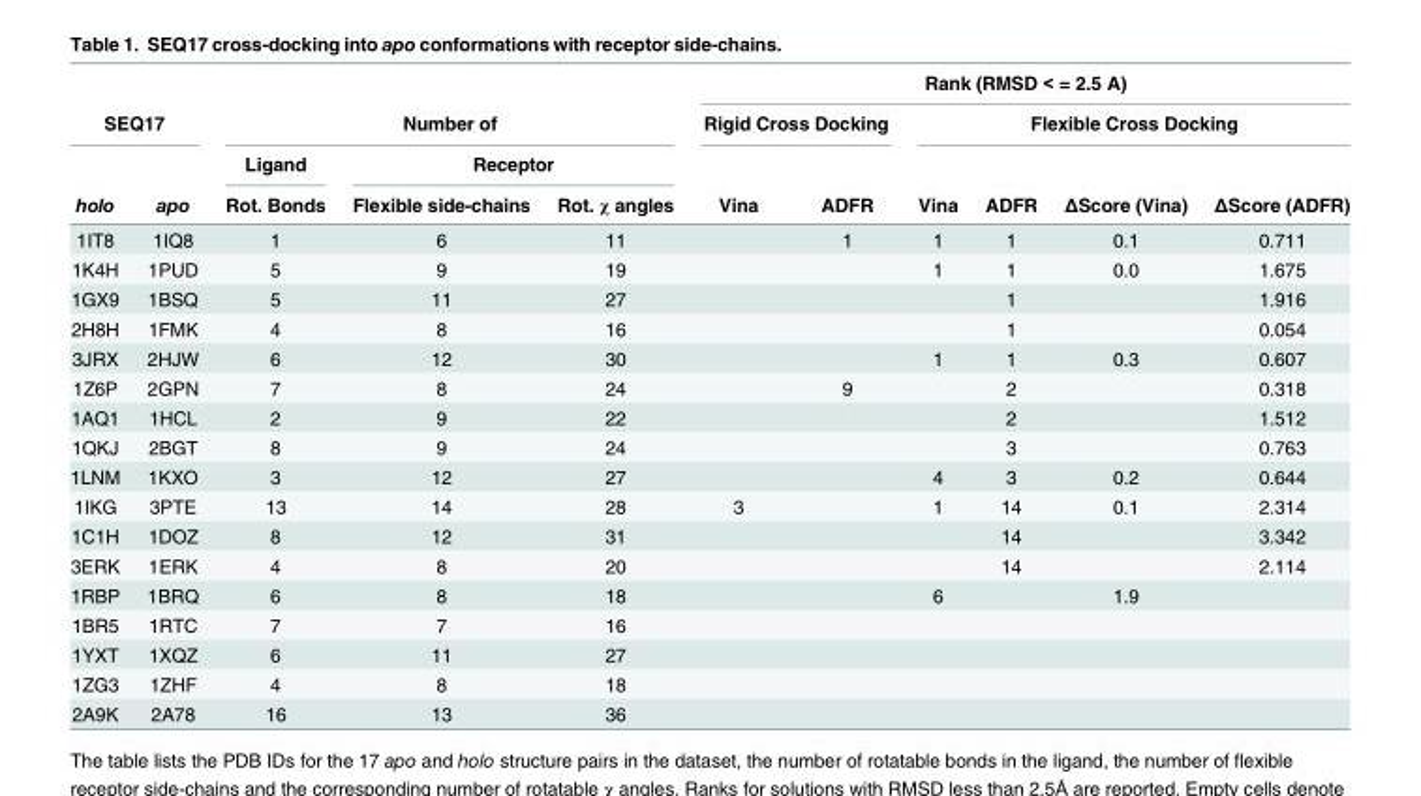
<table><thead><tr><td></td><td></td><td></td><td></td><td></td><td colspan="6">Rank (RMSD &lt; = 2.5 A)</td></tr><tr><td colspan="2">SEQ17</td><td colspan="3">Number of</td><td colspan="2">Rigid Cross Docking</td><td colspan="4">Flexible Cross Docking</td></tr><tr><td rowspan="2">holo</td><td rowspan="2">apo</td><td rowspan="2">Ligand Rot. Bonds</td><td colspan="2">Receptor</td><td rowspan="2">Vina</td><td rowspan="2">ADFR</td><td rowspan="2">Vina</td><td rowspan="2">ADFR</td><td rowspan="2">ΔScore (Vina)</td><td rowspan="2">ΔScore (ADFR)</td></tr><tr><td>Flexible side-chains</td><td>Rot. χ angles</td></tr></thead><tbody><tr><td>1IT8</td><td>1IQ8</td><td>1</td><td>6</td><td>11</td><td></td><td>1</td><td>1</td><td>1</td><td>0.1</td><td>0.711</td></tr><tr><td>1K4H</td><td>1PUD</td><td>5</td><td>9</td><td>19</td><td></td><td></td><td>1</td><td>1</td><td>0.0</td><td>1.675</td></tr><tr><td>1GX9</td><td>1BSQ</td><td>5</td><td>11</td><td>27</td><td></td><td></td><td></td><td>1</td><td></td><td>1.916</td></tr><tr><td>2H8H</td><td>1FMK</td><td>4</td><td>8</td><td>16</td><td></td><td></td><td></td><td>1</td><td></td><td>0.054</td></tr><tr><td>3JRX</td><td>2HJW</td><td>6</td><td>12</td><td>30</td><td></td><td></td><td>1</td><td>1</td><td>0.3</td><td>0.607</td></tr><tr><td>1Z6P</td><td>2GPN</td><td>7</td><td>8</td><td>24</td><td></td><td>9</td><td></td><td>2</td><td></td><td>0.318</td></tr><tr><td>1AQ1</td><td>1HCL</td><td>2</td><td>9</td><td>22</td><td></td><td></td><td></td><td>2</td><td></td><td>1.512</td></tr><tr><td>1QKJ</td><td>2BGT</td><td>8</td><td>9</td><td>24</td><td></td><td></td><td></td><td>3</td><td></td><td>0.763</td></tr><tr><td>1LNM</td><td>1KXO</td><td>3</td><td>12</td><td>27</td><td></td><td></td><td>4</td><td>3</td><td>0.2</td><td>0.644</td></tr><tr><td>1IKG</td><td>3PTE</td><td>13</td><td>14</td><td>28</td><td>3</td><td></td><td>1</td><td>14</td><td>0.1</td><td>2.314</td></tr><tr><td>1C1H</td><td>1DOZ</td><td>8</td><td>12</td><td>31</td><td></td><td></td><td></td><td>14</td><td></td><td>3.342</td></tr><tr><td>3ERK</td><td>1ERK</td><td>4</td><td>8</td><td>20</td><td></td><td></td><td></td><td>14</td><td></td><td>2.114</td></tr><tr><td>1RBP</td><td>1BRQ</td><td>6</td><td>8</td><td>18</td><td></td><td></td><td>6</td><td></td><td>1.9</td><td></td></tr><tr><td>1BR5</td><td>1RTC</td><td>7</td><td>7</td><td>16</td><td></td><td></td><td></td><td></td><td></td><td></td></tr><tr><td>1YXT</td><td>1XQZ</td><td>6</td><td>11</td><td>27</td><td></td><td></td><td></td><td></td><td></td><td></td></tr><tr><td>1ZG3</td><td>1ZHF</td><td>4</td><td>8</td><td>18</td><td></td><td></td><td></td><td></td><td></td><td></td></tr><tr><td>2A9K</td><td>2A78</td><td>16</td><td>13</td><td>36</td><td></td><td></td><td></td><td></td><td></td><td></td></tr></tbody></table>